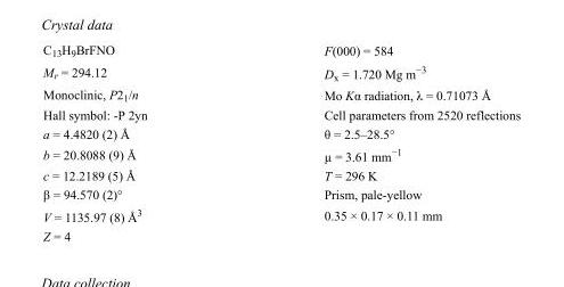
<table><tbody><tr><td>C<sub>13</sub>H<sub>9</sub>BrFNO</td><td>F(000) = 584</td></tr><tr><td>M<sub>r</sub> = 294.12</td><td>D<sub>x</sub> = 1.720 Mg m<sup>−3</sup></td></tr><tr><td>Monoclinic, P2<sub>1</sub>/n</td><td>Mo Kα radiation, λ = 0.71073 Å</td></tr><tr><td>Hall symbol: -P 2yn</td><td>Cell parameters from 2520 reflections</td></tr><tr><td>a = 4.4820 (2) Å</td><td>θ = 2.5–28.5°</td></tr><tr><td>b = 20.8088 (9) Å</td><td>µ = 3.61 mm<sup>−1</sup></td></tr><tr><td>c = 12.2189 (5) Å</td><td>T = 296 K</td></tr><tr><td>β = 94.570 (2)°</td><td>Prism, pale-yellow</td></tr><tr><td>V = 1135.97 (8) Å<sup>3</sup></td><td>0.35 × 0.17 × 0.11 mm</td></tr><tr><td>Z = 4</td><td></td></tr></tbody></table>